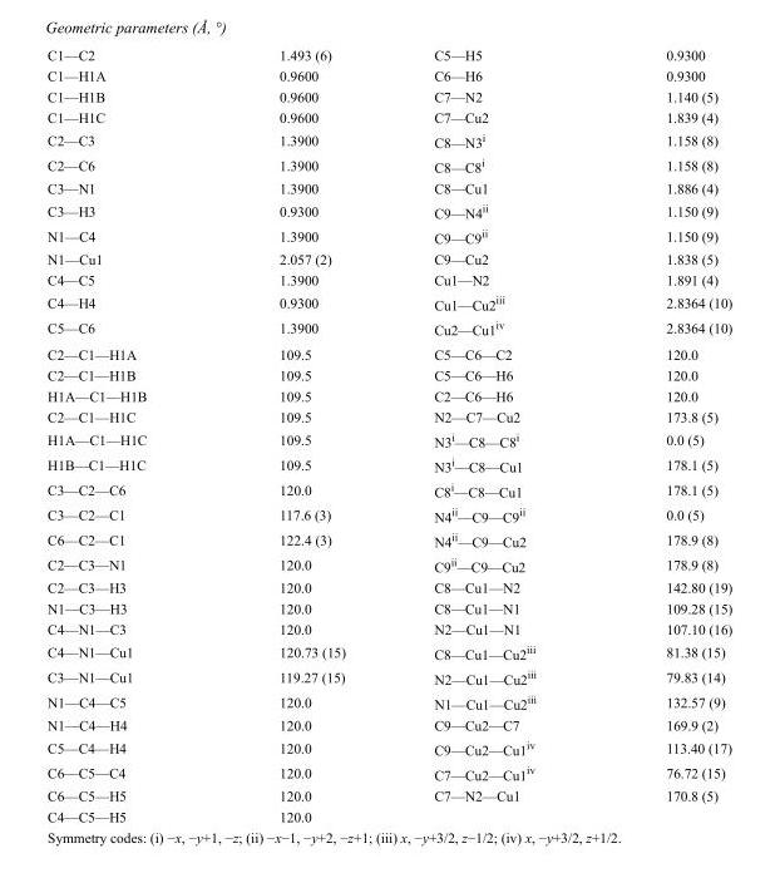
<table><tbody><tr><td>C1—C2</td><td>1.493 (6)</td><td>C5—H5</td><td>0.9300</td></tr><tr><td>C1—H1A</td><td>0.9600</td><td>C6—H6</td><td>0.9300</td></tr><tr><td>C1—H1B</td><td>0.9600</td><td>C7—N2</td><td>1.140 (5)</td></tr><tr><td>C1—H1C</td><td>0.9600</td><td>C7—Cu2</td><td>1.839 (4)</td></tr><tr><td>C2—C3</td><td>1.3900</td><td>C8—N3<sup>i</sup></td><td>1.158 (8)</td></tr><tr><td>C2—C6</td><td>1.3900</td><td>C8—C8<sup>i</sup></td><td>1.158 (8)</td></tr><tr><td>C3—N1</td><td>1.3900</td><td>C8—Cu1</td><td>1.886 (4)</td></tr><tr><td>C3—H3</td><td>0.9300</td><td>C9—N4<sup>ii</sup></td><td>1.150 (9)</td></tr><tr><td>N1—C4</td><td>1.3900</td><td>C9—C9<sup>ii</sup></td><td>1.150 (9)</td></tr><tr><td>N1—Cu1</td><td>2.057 (2)</td><td>C9—Cu2</td><td>1.838 (5)</td></tr><tr><td>C4—C5</td><td>1.3900</td><td>Cu1—N2</td><td>1.891 (4)</td></tr><tr><td>C4—H4</td><td>0.9300</td><td>Cu1—Cu2<sup>iii</sup></td><td>2.8364 (10)</td></tr><tr><td>C5—C6</td><td>1.3900</td><td>Cu2—Cu1<sup>iv</sup></td><td>2.8364 (10)</td></tr><tr><td>C2—C1—H1A</td><td>109.5</td><td>C5—C6—C2</td><td>120.0</td></tr><tr><td>C2—C1—H1B</td><td>109.5</td><td>C5—C6—H6</td><td>120.0</td></tr><tr><td>H1A—C1—H1B</td><td>109.5</td><td>C2—C6—H6</td><td>120.0</td></tr><tr><td>C2—C1—H1C</td><td>109.5</td><td>N2—C7—Cu2</td><td>173.8 (5)</td></tr><tr><td>H1A—C1—H1C</td><td>109.5</td><td>N3<sup>i</sup>—C8—C8<sup>i</sup></td><td>0.0 (5)</td></tr><tr><td>H1B—C1—H1C</td><td>109.5</td><td>N3<sup>i</sup>—C8—Cu1</td><td>178.1 (5)</td></tr><tr><td>C3—C2—C6</td><td>120.0</td><td>C8<sup>i</sup>—C8—Cu1</td><td>178.1 (5)</td></tr><tr><td>C3—C2—C1</td><td>117.6 (3)</td><td>N4<sup>ii</sup>—C9—C9<sup>ii</sup></td><td>0.0 (5)</td></tr><tr><td>C6—C2—C1</td><td>122.4 (3)</td><td>N4<sup>ii</sup>—C9—Cu2</td><td>178.9 (8)</td></tr><tr><td>C2—C3—N1</td><td>120.0</td><td>C9<sup>ii</sup>—C9—Cu2</td><td>178.9 (8)</td></tr><tr><td>C2—C3—H3</td><td>120.0</td><td>C8—Cu1—N2</td><td>142.80 (19)</td></tr><tr><td>N1—C3—H3</td><td>120.0</td><td>C8—Cu1—N1</td><td>109.28 (15)</td></tr><tr><td>C4—N1—C3</td><td>120.0</td><td>N2—Cu1—N1</td><td>107.10 (16)</td></tr><tr><td>C4—N1—Cu1</td><td>120.73 (15)</td><td>C8—Cu1—Cu2<sup>iii</sup></td><td>81.38 (15)</td></tr><tr><td>C3—N1—Cu1</td><td>119.27 (15)</td><td>N2—Cu1—Cu2<sup>iii</sup></td><td>79.83 (14)</td></tr><tr><td>N1—C4—C5</td><td>120.0</td><td>N1—Cu1—Cu2<sup>iii</sup></td><td>132.57 (9)</td></tr><tr><td>N1—C4—H4</td><td>120.0</td><td>C9—Cu2—C7</td><td>169.9 (2)</td></tr><tr><td>C5—C4—H4</td><td>120.0</td><td>C9—Cu2—Cu1<sup>iv</sup></td><td>113.40 (17)</td></tr><tr><td>C6—C5—C4</td><td>120.0</td><td>C7—Cu2—Cu1<sup>iv</sup></td><td>76.72 (15)</td></tr><tr><td>C6—C5—H5</td><td>120.0</td><td>C7—N2—Cu1</td><td>170.8 (5)</td></tr><tr><td>C4—C5—H5</td><td>120.0</td><td></td><td></td></tr></tbody></table>